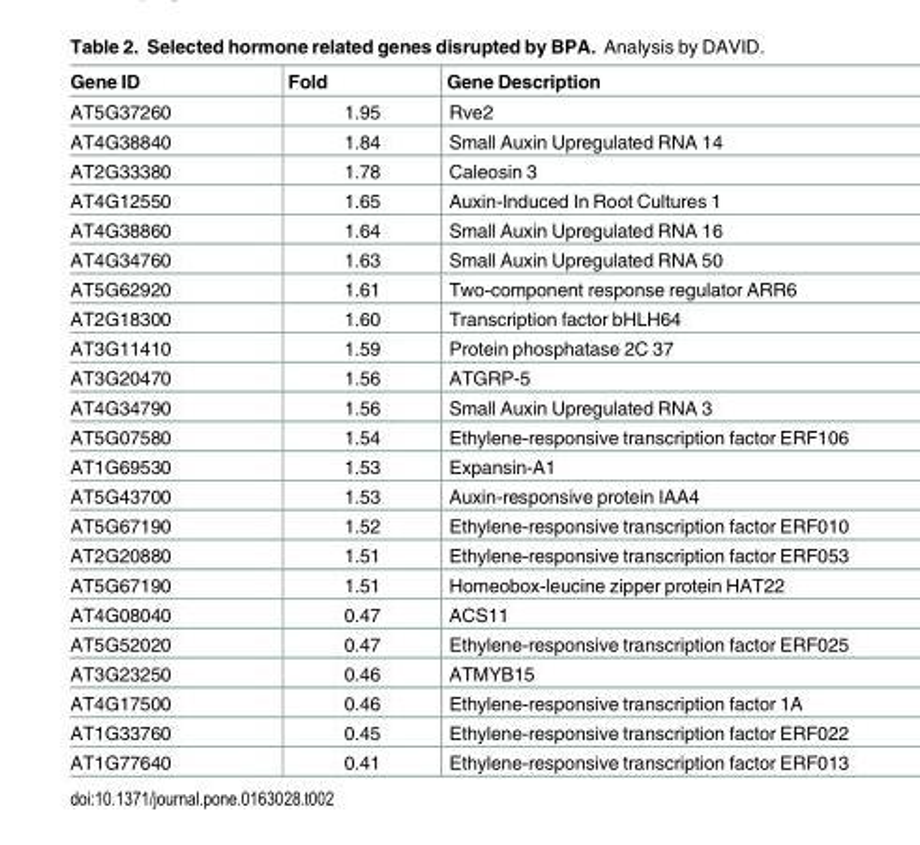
<table><thead><tr><td>Gene ID</td><td>Fold</td><td>Gene Description</td></tr></thead><tbody><tr><td>AT5G37260</td><td>1.95</td><td>Rve2</td></tr><tr><td>AT4G38840</td><td>1.84</td><td>Small Auxin Upregulated RNA 14</td></tr><tr><td>AT2G33380</td><td>1.78</td><td>Caleosin 3</td></tr><tr><td>AT4G12550</td><td>1.65</td><td>Auxin-Induced In Root Cultures 1</td></tr><tr><td>AT4G38860</td><td>1.64</td><td>Small Auxin Upregulated RNA 16</td></tr><tr><td>AT4G34760</td><td>1.63</td><td>Small Auxin Upregulated RNA 50</td></tr><tr><td>AT5G62920</td><td>1.61</td><td>Two-component response regulator ARR6</td></tr><tr><td>AT2G18300</td><td>1.60</td><td>Transcription factor bHLH64</td></tr><tr><td>AT3G11410</td><td>1.59</td><td>Protein phosphatase 2C 37</td></tr><tr><td>AT3G20470</td><td>1.56</td><td>ATGRP-5</td></tr><tr><td>AT4G34790</td><td>1.56</td><td>Small Auxin Upregulated RNA 3</td></tr><tr><td>AT5G07580</td><td>1.54</td><td>Ethylene-responsive transcription factor ERF106</td></tr><tr><td>AT1G69530</td><td>1.53</td><td>Expansin-A1</td></tr><tr><td>AT5G43700</td><td>1.53</td><td>Auxin-responsive protein IAA4</td></tr><tr><td>AT5G67190</td><td>1.52</td><td>Ethylene-responsive transcription factor ERF010</td></tr><tr><td>AT2G20880</td><td>1.51</td><td>Ethylene-responsive transcription factor ERF053</td></tr><tr><td>AT5G67190</td><td>1.51</td><td>Homeobox-leucine zipper protein HAT22</td></tr><tr><td>AT4G08040</td><td>0.47</td><td>ACS11</td></tr><tr><td>AT5G52020</td><td>0.47</td><td>Ethylene-responsive transcription factor ERF025</td></tr><tr><td>AT3G23250</td><td>0.46</td><td>ATMYB15</td></tr><tr><td>AT4G17500</td><td>0.46</td><td>Ethylene-responsive transcription factor 1A</td></tr><tr><td>AT1G33760</td><td>0.45</td><td>Ethylene-responsive transcription factor ERF022</td></tr><tr><td>AT1G77640</td><td>0.41</td><td>Ethylene-responsive transcription factor ERF013</td></tr></tbody></table>